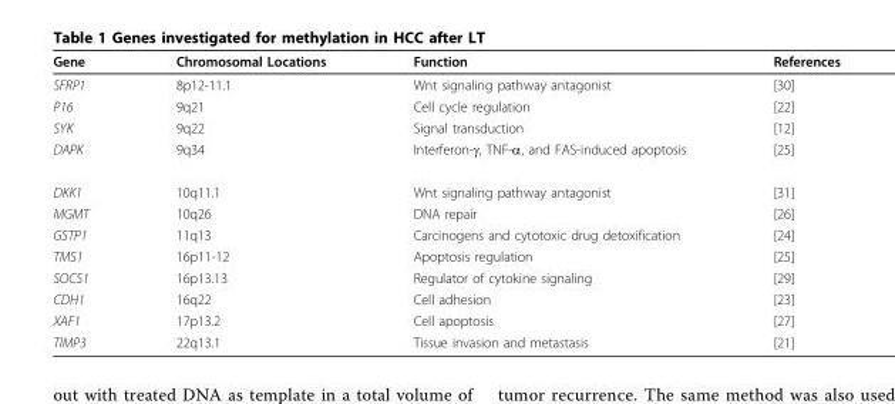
<table><thead><tr><td>Gene</td><td>Chromosomal Locations</td><td>Function</td><td>References</td></tr></thead><tbody><tr><td>SFRP1</td><td>8p12-11.1</td><td>Wnt signaling pathway antagonist</td><td>[30]</td></tr><tr><td>P16</td><td>9q21</td><td>Cell cycle regulation</td><td>[22]</td></tr><tr><td>SYK</td><td>9q22</td><td>Signal transduction</td><td>[12]</td></tr><tr><td>DAPK</td><td>9q34</td><td>Interferon-γ, TNF-α, and FAS-induced apoptosis</td><td>[25]</td></tr><tr><td>DKK1</td><td>10q11.1</td><td>Wnt signaling pathway antagonist</td><td>[31]</td></tr><tr><td>MGMT</td><td>10q26</td><td>DNA repair</td><td>[26]</td></tr><tr><td>GSTP1</td><td>11q13</td><td>Carcinogens and cytotoxic drug detoxification</td><td>[24]</td></tr><tr><td>TMS1</td><td>16p11-12</td><td>Apoptosis regulation</td><td>[25]</td></tr><tr><td>SOCS1</td><td>16p13.13</td><td>Regulator of cytokine signaling</td><td>[29]</td></tr><tr><td>CDH1</td><td>16q22</td><td>Cell adhesion</td><td>[23]</td></tr><tr><td>XAF1</td><td>17p13.2</td><td>Cell apoptosis</td><td>[27]</td></tr><tr><td>TIMP3</td><td>22q13.1</td><td>Tissue invasion and metastasis</td><td>[21]</td></tr></tbody></table>